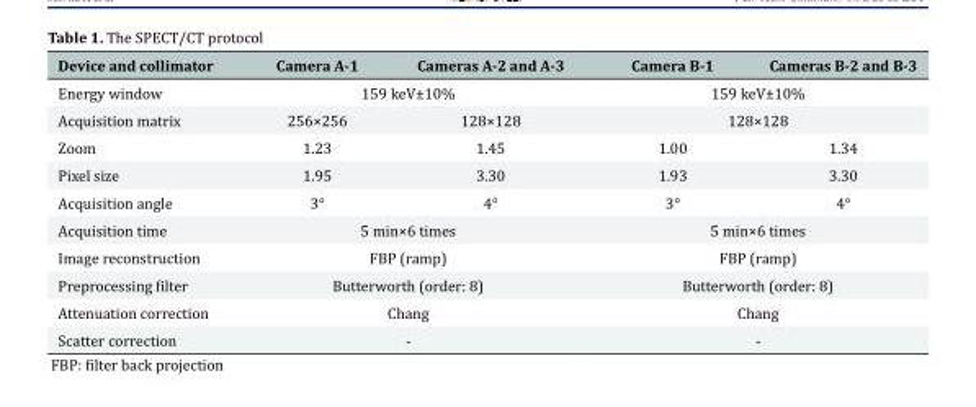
<table><thead><tr><td>Device and collimator</td><td>Camera A-1</td><td>Cameras A-2 and A-3</td><td>Camera B-1</td><td>Cameras B-2 and B-3</td></tr></thead><tbody><tr><td>Energy window</td><td colspan="2">159 keV±10%</td><td colspan="2">159 keV±10%</td></tr><tr><td>Acquisition matrix</td><td>256×256</td><td>128×128</td><td colspan="2">128×128</td></tr><tr><td>Zoom</td><td>1.23</td><td>1.45</td><td>1.00</td><td>1.34</td></tr><tr><td>Pixel size</td><td>1.95</td><td>3.30</td><td>1.93</td><td>3.30</td></tr><tr><td>Acquisition angle</td><td>3°</td><td>4°</td><td>3°</td><td>4°</td></tr><tr><td>Acquisition time</td><td colspan="2">5 min×6 times</td><td colspan="2">5 min×6 times</td></tr><tr><td>Image reconstruction</td><td colspan="2">FBP (ramp)</td><td colspan="2">FBP (ramp)</td></tr><tr><td>Preprocessing filter</td><td colspan="2">Butterworth (order: 8)</td><td colspan="2">Butterworth (order: 8)</td></tr><tr><td>Attenuation correction</td><td colspan="2">Chang</td><td colspan="2">Chang</td></tr><tr><td>Scatter correction</td><td colspan="2">-</td><td colspan="2">-</td></tr></tbody></table>